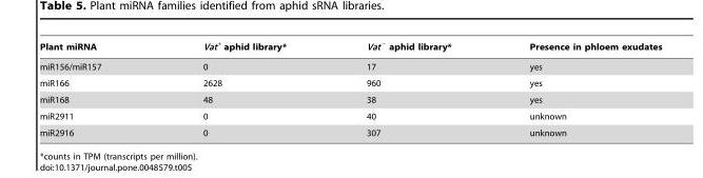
<table><thead><tr><td>Plant miRNA</td><td>Vat<sup>+</sup> aphid library*</td><td>Vat<sup>−</sup> aphid library*</td><td>Presence in phloem exudates</td></tr></thead><tbody><tr><td>miR156/miR157</td><td>0</td><td>17</td><td>yes</td></tr><tr><td>miR166</td><td>2628</td><td>960</td><td>yes</td></tr><tr><td>miR168</td><td>48</td><td>38</td><td>yes</td></tr><tr><td>miR2911</td><td>0</td><td>40</td><td>unknown</td></tr><tr><td>miR2916</td><td>0</td><td>307</td><td>unknown</td></tr></tbody></table>